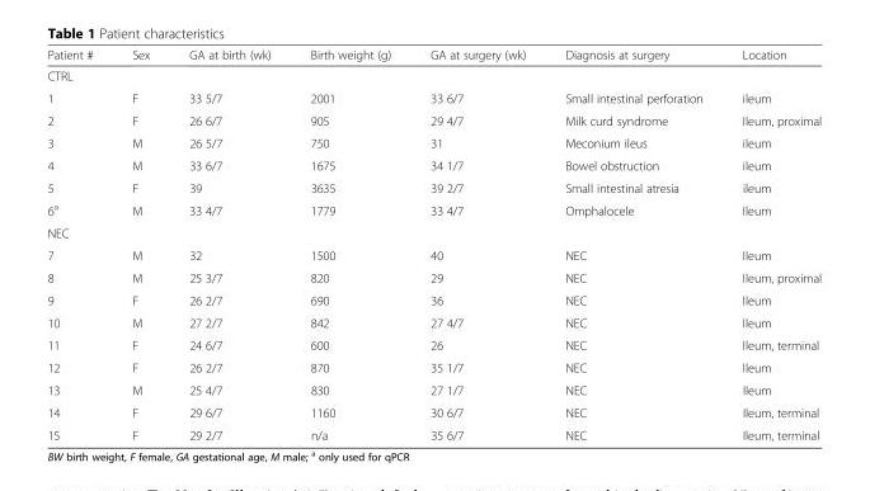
<table><thead><tr><td>Patient #</td><td>Sex</td><td>GA at birth (wk)</td><td>Birth weight (g)</td><td>GA at surgery (wk)</td><td>Diagnosis at surgery</td><td>Location</td></tr></thead><tbody><tr><td colspan="7">CTRL</td></tr><tr><td>1</td><td>F</td><td>33 5/7</td><td>2001</td><td>33 6/7</td><td>Small intestinal perforation</td><td>ileum</td></tr><tr><td>2</td><td>F</td><td>26 6/7</td><td>905</td><td>29 4/7</td><td>Milk curd syndrome</td><td>Ileum, proximal</td></tr><tr><td>3</td><td>M</td><td>26 5/7</td><td>750</td><td>31</td><td>Meconium ileus</td><td>ileum</td></tr><tr><td>4</td><td>M</td><td>33 6/7</td><td>1675</td><td>34 1/7</td><td>Bowel obstruction</td><td>ileum</td></tr><tr><td>5</td><td>F</td><td>39</td><td>3635</td><td>39 2/7</td><td>Small intestinal atresia</td><td>ileum</td></tr><tr><td>6<sup>a</sup></td><td>M</td><td>33 4/7</td><td>1779</td><td>33 4/7</td><td>Omphalocele</td><td>Ileum</td></tr><tr><td colspan="7">NEC</td></tr><tr><td>7</td><td>M</td><td>32</td><td>1500</td><td>40</td><td>NEC</td><td>Ileum</td></tr><tr><td>8</td><td>M</td><td>25 3/7</td><td>820</td><td>29</td><td>NEC</td><td>Ileum, proximal</td></tr><tr><td>9</td><td>F</td><td>26 2/7</td><td>690</td><td>36</td><td>NEC</td><td>Ileum</td></tr><tr><td>10</td><td>M</td><td>27 2/7</td><td>842</td><td>27 4/7</td><td>NEC</td><td>Ileum</td></tr><tr><td>11</td><td>F</td><td>24 6/7</td><td>600</td><td>26</td><td>NEC</td><td>Ileum, terminal</td></tr><tr><td>12</td><td>F</td><td>26 2/7</td><td>870</td><td>35 1/7</td><td>NEC</td><td>Ileum</td></tr><tr><td>13</td><td>M</td><td>25 4/7</td><td>830</td><td>27 1/7</td><td>NEC</td><td>Ileum</td></tr><tr><td>14</td><td>F</td><td>29 6/7</td><td>1160</td><td>30 6/7</td><td>NEC</td><td>Ileum, terminal</td></tr><tr><td>15</td><td>F</td><td>29 2/7</td><td>n/a</td><td>35 6/7</td><td>NEC</td><td>Ileum, terminal</td></tr></tbody></table>